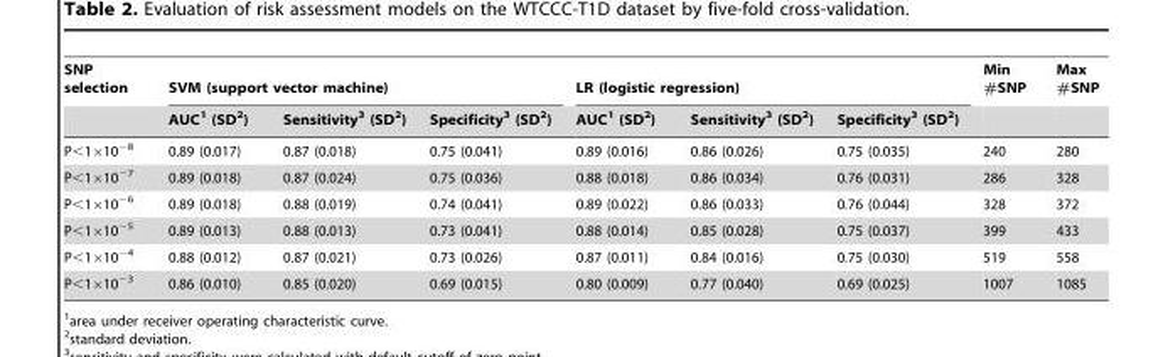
<table><thead><tr><td rowspan="2">SNP selection</td><td colspan="3">SVM (support vector machine)</td><td colspan="3">LR (logistic regression)</td><td rowspan="2">Min #SNP</td><td rowspan="2">Max #SNP</td></tr><tr><td>AUC<sup>1</sup> (SD<sup>2</sup>)</td><td>Sensitivity<sup>3</sup> (SD<sup>2</sup>)</td><td>Specificity<sup>3</sup> (SD<sup>2</sup>)</td><td>AUC<sup>1</sup> (SD<sup>2</sup>)</td><td>Sensitivity<sup>3</sup> (SD<sup>2</sup>)</td><td>Specificity<sup>3</sup> (SD<sup>2</sup>)</td></tr></thead><tbody><tr><td>P&lt;1×10<sup>−8</sup></td><td>0.89 (0.017)</td><td>0.87 (0.018)</td><td>0.75 (0.041)</td><td>0.89 (0.016)</td><td>0.86 (0.026)</td><td>0.75 (0.035)</td><td>240</td><td>280</td></tr><tr><td>P&lt;1×10<sup>−7</sup></td><td>0.89 (0.018)</td><td>0.87 (0.024)</td><td>0.75 (0.036)</td><td>0.88 (0.018)</td><td>0.86 (0.034)</td><td>0.76 (0.031)</td><td>286</td><td>328</td></tr><tr><td>P&lt;1×10<sup>−6</sup></td><td>0.89 (0.018)</td><td>0.88 (0.019)</td><td>0.74 (0.041)</td><td>0.89 (0.022)</td><td>0.86 (0.033)</td><td>0.76 (0.044)</td><td>328</td><td>372</td></tr><tr><td>P&lt;1×10<sup>−5</sup></td><td>0.89 (0.013)</td><td>0.88 (0.013)</td><td>0.73 (0.041)</td><td>0.88 (0.014)</td><td>0.85 (0.028)</td><td>0.75 (0.037)</td><td>399</td><td>433</td></tr><tr><td>P&lt;1×10<sup>−4</sup></td><td>0.88 (0.012)</td><td>0.87 (0.021)</td><td>0.73 (0.026)</td><td>0.87 (0.011)</td><td>0.84 (0.016)</td><td>0.75 (0.030)</td><td>519</td><td>558</td></tr><tr><td>P&lt;1×10<sup>−3</sup></td><td>0.86 (0.010)</td><td>0.85 (0.020)</td><td>0.69 (0.015)</td><td>0.80 (0.009)</td><td>0.77 (0.040)</td><td>0.69 (0.025)</td><td>1007</td><td>1085</td></tr></tbody></table>